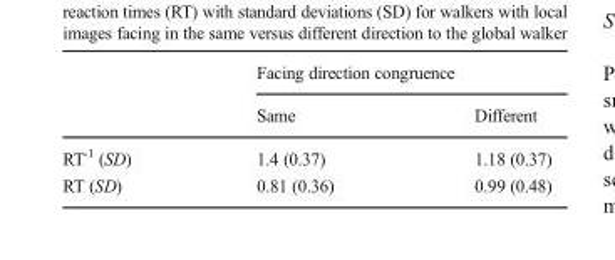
<table><thead><tr><td rowspan="2"></td><td colspan="2">Facing direction congruence</td></tr><tr><td>Same</td><td>Different</td></tr></thead><tbody><tr><td>RT<sup>-1</sup> (SD)</td><td>1.4 (0.37)</td><td>1.18 (0.37)</td></tr><tr><td>RT (SD)</td><td>0.81 (0.36)</td><td>0.99 (0.48)</td></tr></tbody></table>